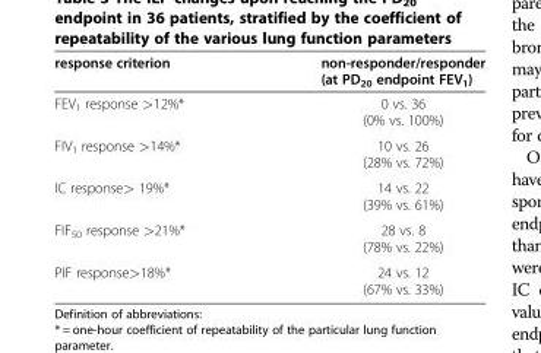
<table><thead><tr><td>response criterion</td><td>non-responder/responder (at PD<sub>20</sub> endpoint FEV<sub>1</sub>)</td></tr></thead><tbody><tr><td>FEV<sub>1</sub> response &gt;12%*</td><td>0 vs. 36 (0% vs. 100%)</td></tr><tr><td>FIV<sub>1</sub> response &gt;14%*</td><td>10 vs. 26 (28% vs. 72%)</td></tr><tr><td>IC response&gt; 19%*</td><td>14 vs. 22 (39% vs. 61%)</td></tr><tr><td>FIF<sub>50</sub> response &gt;21%*</td><td>28 vs. 8 (78% vs. 22%)</td></tr><tr><td>PIF response&gt;18%*</td><td>24 vs. 12 (67% vs. 33%)</td></tr></tbody></table>